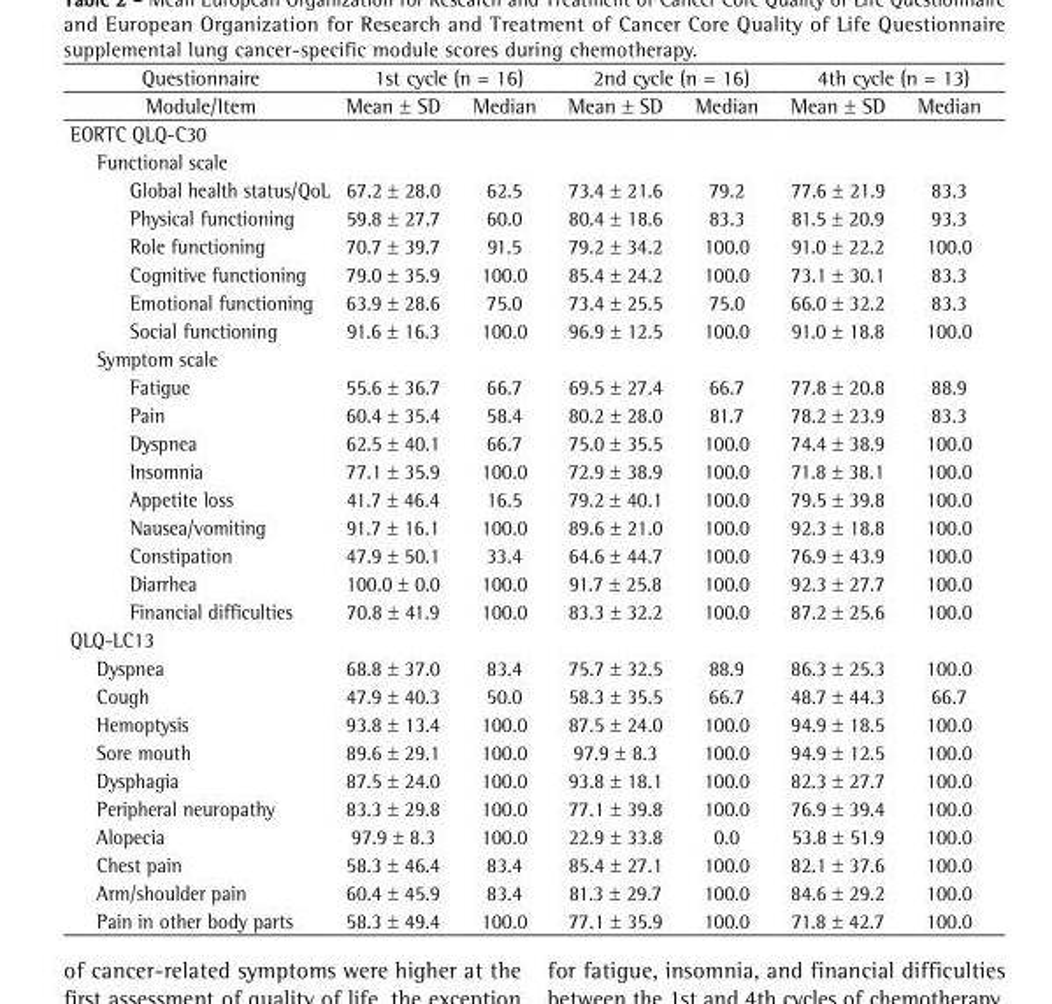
<table><thead><tr><td rowspan="2">Questionnaire Module/Item</td><td colspan="2">1st cycle (n = 16)</td><td colspan="2">2nd cycle (n = 16)</td><td colspan="2">4th cycle (n = 13)</td></tr><tr><td>Mean ± SD</td><td>Median</td><td>Mean ± SD</td><td>Median</td><td>Mean ± SD</td><td>Median</td></tr></thead><tbody><tr><td colspan="7">EORTC QLQ-C30</td></tr><tr><td colspan="7">Functional scale</td></tr><tr><td>Global health status/QoL</td><td>67.2 ± 28.0</td><td>62.5</td><td>73.4 ± 21.6</td><td>79.2</td><td>77.6 ± 21.9</td><td>83.3</td></tr><tr><td>Physical functioning</td><td>59.8 ± 27.7</td><td>60.0</td><td>80.4 ± 18.6</td><td>83.3</td><td>81.5 ± 20.9</td><td>93.3</td></tr><tr><td>Role functioning</td><td>70.7 ± 39.7</td><td>91.5</td><td>79.2 ± 34.2</td><td>100.0</td><td>91.0 ± 22.2</td><td>100.0</td></tr><tr><td>Cognitive functioning</td><td>79.0 ± 35.9</td><td>100.0</td><td>85.4 ± 24.2</td><td>100.0</td><td>73.1 ± 30.1</td><td>83.3</td></tr><tr><td>Emotional functioning</td><td>63.9 ± 28.6</td><td>75.0</td><td>73.4 ± 25.5</td><td>75.0</td><td>66.0 ± 32.2</td><td>83.3</td></tr><tr><td>Social functioning</td><td>91.6 ± 16.3</td><td>100.0</td><td>96.9 ± 12.5</td><td>100.0</td><td>91.0 ± 18.8</td><td>100.0</td></tr><tr><td colspan="7">Symptom scale</td></tr><tr><td>Fatigue</td><td>55.6 ± 36.7</td><td>66.7</td><td>69.5 ± 27.4</td><td>66.7</td><td>77.8 ± 20.8</td><td>88.9</td></tr><tr><td>Pain</td><td>60.4 ± 35.4</td><td>58.4</td><td>80.2 ± 28.0</td><td>81.7</td><td>78.2 ± 23.9</td><td>83.3</td></tr><tr><td>Dyspnea</td><td>62.5 ± 40.1</td><td>66.7</td><td>75.0 ± 35.5</td><td>100.0</td><td>74.4 ± 38.9</td><td>100.0</td></tr><tr><td>Insomnia</td><td>77.1 ± 35.9</td><td>100.0</td><td>72.9 ± 38.9</td><td>100.0</td><td>71.8 ± 38.1</td><td>100.0</td></tr><tr><td>Appetite loss</td><td>41.7 ± 46.4</td><td>16.5</td><td>79.2 ± 40.1</td><td>100.0</td><td>79.5 ± 39.8</td><td>100.0</td></tr><tr><td>Nausea/vomiting</td><td>91.7 ± 16.1</td><td>100.0</td><td>89.6 ± 21.0</td><td>100.0</td><td>92.3 ± 18.8</td><td>100.0</td></tr><tr><td>Constipation</td><td>47.9 ± 50.1</td><td>33.4</td><td>64.6 ± 44.7</td><td>100.0</td><td>76.9 ± 43.9</td><td>100.0</td></tr><tr><td>Diarrhea</td><td>100.0 ± 0.0</td><td>100.0</td><td>91.7 ± 25.8</td><td>100.0</td><td>92.3 ± 27.7</td><td>100.0</td></tr><tr><td>Financial difficulties</td><td>70.8 ± 41.9</td><td>100.0</td><td>83.3 ± 32.2</td><td>100.0</td><td>87.2 ± 25.6</td><td>100.0</td></tr><tr><td colspan="7">QLQ-LC13</td></tr><tr><td>Dyspnea</td><td>68.8 ± 37.0</td><td>83.4</td><td>75.7 ± 32.5</td><td>88.9</td><td>86.3 ± 25.3</td><td>100.0</td></tr><tr><td>Cough</td><td>47.9 ± 40.3</td><td>50.0</td><td>58.3 ± 35.5</td><td>66.7</td><td>48.7 ± 44.3</td><td>66.7</td></tr><tr><td>Hemoptysis</td><td>93.8 ± 13.4</td><td>100.0</td><td>87.5 ± 24.0</td><td>100.0</td><td>94.9 ± 18.5</td><td>100.0</td></tr><tr><td>Sore mouth</td><td>89.6 ± 29.1</td><td>100.0</td><td>97.9 ± 8.3</td><td>100.0</td><td>94.9 ± 12.5</td><td>100.0</td></tr><tr><td>Dysphagia</td><td>87.5 ± 24.0</td><td>100.0</td><td>93.8 ± 18.1</td><td>100.0</td><td>82.3 ± 27.7</td><td>100.0</td></tr><tr><td>Peripheral neuropathy</td><td>83.3 ± 29.8</td><td>100.0</td><td>77.1 ± 39.8</td><td>100.0</td><td>76.9 ± 39.4</td><td>100.0</td></tr><tr><td>Alopecia</td><td>97.9 ± 8.3</td><td>100.0</td><td>22.9 ± 33.8</td><td>0.0</td><td>53.8 ± 51.9</td><td>100.0</td></tr><tr><td>Chest pain</td><td>58.3 ± 46.4</td><td>83.4</td><td>85.4 ± 27.1</td><td>100.0</td><td>82.1 ± 37.6</td><td>100.0</td></tr><tr><td>Arm/shoulder pain</td><td>60.4 ± 45.9</td><td>83.4</td><td>81.3 ± 29.7</td><td>100.0</td><td>84.6 ± 29.2</td><td>100.0</td></tr><tr><td>Pain in other body parts</td><td>58.3 ± 49.4</td><td>100.0</td><td>77.1 ± 35.9</td><td>100.0</td><td>71.8 ± 42.7</td><td>100.0</td></tr></tbody></table>